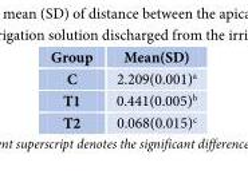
<table><thead><tr><td>Group</td><td>Mean(SD)</td></tr></thead><tbody><tr><td>C</td><td>2.209(0.001)<sup>a</sup></td></tr><tr><td>T1</td><td>0.441(0.005)<sup>b</sup></td></tr><tr><td>T2</td><td>0.068(0.015)<sup>c</sup></td></tr></tbody></table>